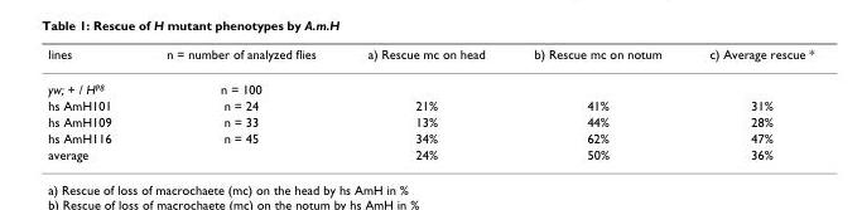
<table><thead><tr><td>lines</td><td>n = number of analyzed flies</td><td>a) Rescue mc on head</td><td>b) Rescue mc on notum</td><td>c) Average rescue *</td></tr></thead><tbody><tr><td>yw; + / H<sup>P8</sup></td><td>n = 100</td><td></td><td></td><td></td></tr><tr><td>hs AmH101</td><td>n = 24</td><td>21%</td><td>41%</td><td>31%</td></tr><tr><td>hs AmH109</td><td>n = 33</td><td>13%</td><td>44%</td><td>28%</td></tr><tr><td>hs AmH116</td><td>n = 45</td><td>34%</td><td>62%</td><td>47%</td></tr><tr><td>average</td><td></td><td>24%</td><td>50%</td><td>36%</td></tr></tbody></table>